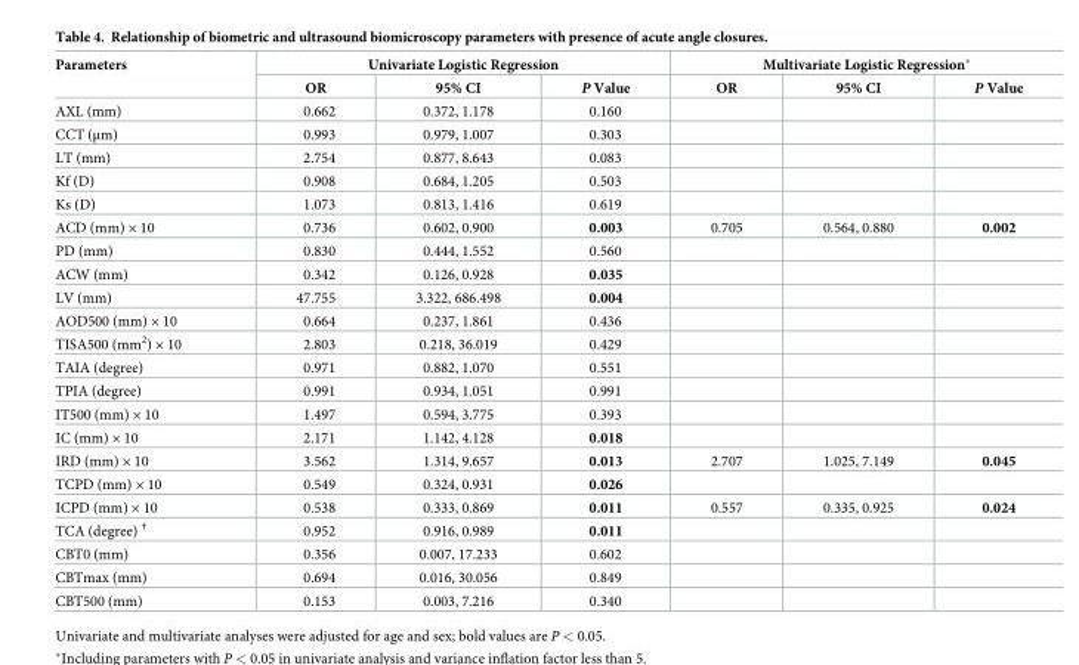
<table><thead><tr><td rowspan="2">Parameters</td><td colspan="3">Univariate Logistic Regression</td><td colspan="3">Multivariate Logistic Regression*</td></tr><tr><td>OR</td><td>95% CI</td><td>P Value</td><td>OR</td><td>95% CI</td><td>P Value</td></tr></thead><tbody><tr><td>AXL (mm)</td><td>0.662</td><td>0.372, 1.178</td><td>0.160</td><td></td><td></td><td></td></tr><tr><td>CCT (μm)</td><td>0.993</td><td>0.979, 1.007</td><td>0.303</td><td></td><td></td><td></td></tr><tr><td>LT (mm)</td><td>2.754</td><td>0.877, 8.643</td><td>0.083</td><td></td><td></td><td></td></tr><tr><td>Kf (D)</td><td>0.908</td><td>0.684, 1.205</td><td>0.503</td><td></td><td></td><td></td></tr><tr><td>Ks (D)</td><td>1.073</td><td>0.813, 1.416</td><td>0.619</td><td></td><td></td><td></td></tr><tr><td>ACD (mm) × 10</td><td>0.736</td><td>0.602, 0.900</td><td>0.003</td><td>0.705</td><td>0.564, 0.880</td><td>0.002</td></tr><tr><td>PD (mm)</td><td>0.830</td><td>0.444, 1.552</td><td>0.560</td><td></td><td></td><td></td></tr><tr><td>ACW (mm)</td><td>0.342</td><td>0.126, 0.928</td><td>0.035</td><td></td><td></td><td></td></tr><tr><td>LV (mm)</td><td>47.755</td><td>3.322, 686.498</td><td>0.004</td><td></td><td></td><td></td></tr><tr><td>AOD500 (mm) × 10</td><td>0.664</td><td>0.237, 1.861</td><td>0.436</td><td></td><td></td><td></td></tr><tr><td>TISA500 (mm<sup>2</sup>) × 10</td><td>2.803</td><td>0.218, 36.019</td><td>0.429</td><td></td><td></td><td></td></tr><tr><td>TAIA (degree)</td><td>0.971</td><td>0.882, 1.070</td><td>0.551</td><td></td><td></td><td></td></tr><tr><td>TPIA (degree)</td><td>0.991</td><td>0.934, 1.051</td><td>0.991</td><td></td><td></td><td></td></tr><tr><td>IT500 (mm) × 10</td><td>1.497</td><td>0.594, 3.775</td><td>0.393</td><td></td><td></td><td></td></tr><tr><td>IC (mm) × 10</td><td>2.171</td><td>1.142, 4.128</td><td>0.018</td><td></td><td></td><td></td></tr><tr><td>IRD (mm) × 10</td><td>3.562</td><td>1.314, 9.657</td><td>0.013</td><td>2.707</td><td>1.025, 7.149</td><td>0.045</td></tr><tr><td>TCPD (mm) × 10</td><td>0.549</td><td>0.324, 0.931</td><td>0.026</td><td></td><td></td><td></td></tr><tr><td>ICPD (mm) × 10</td><td>0.538</td><td>0.333, 0.869</td><td>0.011</td><td>0.557</td><td>0.335, 0.925</td><td>0.024</td></tr><tr><td>TCA (degree) <sup>†</sup></td><td>0.952</td><td>0.916, 0.989</td><td>0.011</td><td></td><td></td><td></td></tr><tr><td>CBT0 (mm)</td><td>0.356</td><td>0.007, 17.233</td><td>0.602</td><td></td><td></td><td></td></tr><tr><td>CBTmax (mm)</td><td>0.694</td><td>0.016, 30.056</td><td>0.849</td><td></td><td></td><td></td></tr><tr><td>CBT500 (mm)</td><td>0.153</td><td>0.003, 7.216</td><td>0.340</td><td></td><td></td><td></td></tr></tbody></table>